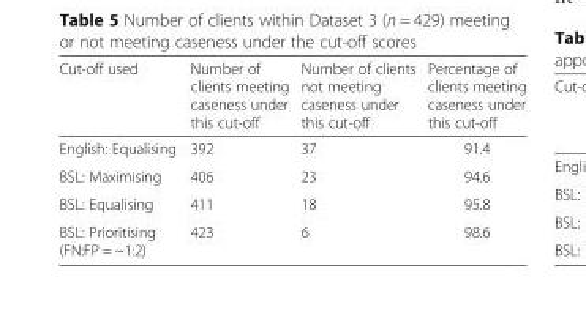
<table><thead><tr><td>Cut-off used</td><td>Number of clients meeting caseness under this cut-off</td><td>Number of clients not meeting caseness under this cut-off</td><td>Percentage of clients meeting caseness under this cut-off</td></tr></thead><tbody><tr><td>English: Equalising</td><td>392</td><td>37</td><td>91.4</td></tr><tr><td>BSL: Maximising</td><td>406</td><td>23</td><td>94.6</td></tr><tr><td>BSL: Equalising</td><td>411</td><td>18</td><td>95.8</td></tr><tr><td>BSL: Prioritising (FN:FP = ~1:2)</td><td>423</td><td>6</td><td>98.6</td></tr></tbody></table>